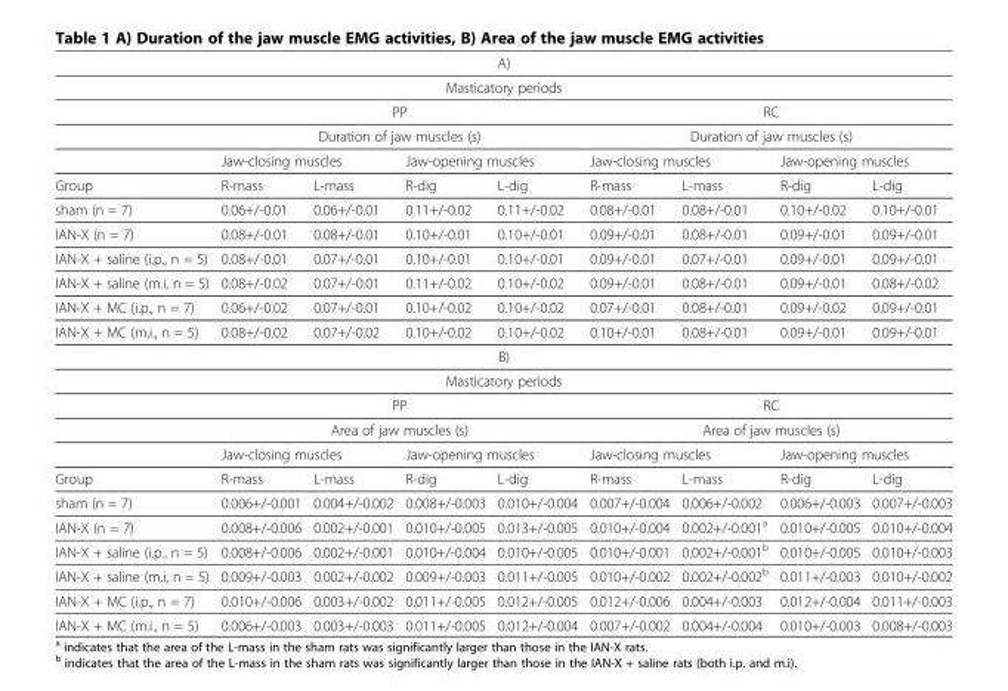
<table><tbody><tr><td colspan="9">A)</td></tr><tr><td colspan="9">Masticatory periods</td></tr><tr><td></td><td colspan="4">PP</td><td colspan="4">RC</td></tr><tr><td></td><td colspan="4">Duration of jaw muscles (s)</td><td colspan="4">Duration of jaw muscles (s)</td></tr><tr><td></td><td colspan="2">Jaw-closing muscles</td><td colspan="2">Jaw-opening muscles</td><td colspan="2">Jaw-closing muscles</td><td colspan="2">Jaw-opening muscles</td></tr><tr><td>Group</td><td>R-mass</td><td>L-mass</td><td>R-dig</td><td>L-dig</td><td>R-mass</td><td>L-mass</td><td>R-dig</td><td>L-dig</td></tr><tr><td>sham (n = 7)</td><td>0.06+/-0.01</td><td>0.06+/-0.01</td><td>0.11+/-0.02</td><td>0.11+/-0.02</td><td>0.08+/-0.01</td><td>0.08+/-0.01</td><td>0.10+/-0.02</td><td>0.10+/-0.01</td></tr><tr><td>IAN-X (n = 7)</td><td>0.08+/-0.01</td><td>0.08+/-0.01</td><td>0.10+/-0.01</td><td>0.10+/-0.01</td><td>0.09+/-0.01</td><td>0.08+/-0.01</td><td>0.09+/-0.01</td><td>0.09+/-0.01</td></tr><tr><td>IAN-X + saline (i.p., n = 5)</td><td>0.08+/-0.01</td><td>0.07+/-0.01</td><td>0.10+/-0.01</td><td>0.10+/-0.01</td><td>0.09+/-0.01</td><td>0.07+/-0.01</td><td>0.09+/-0.01</td><td>0.09+/-0.01</td></tr><tr><td>IAN-X + saline (m.i, n = 5)</td><td>0.08+/-0.02</td><td>0.07+/-0.01</td><td>0.11+/-0.02</td><td>0.10+/-0.02</td><td>0.09+/-0.01</td><td>0.08+/-0.01</td><td>0.09+/-0.01</td><td>0.08+/-0.02</td></tr><tr><td>IAN-X + MC (i.p., n = 7)</td><td>0.06+/-0.02</td><td>0.07+/-0.01</td><td>0.10+/-0.02</td><td>0.10+/-0.02</td><td>0.07+/-0.01</td><td>0.08+/-0.01</td><td>0.09+/-0.02</td><td>0.09+/-0.01</td></tr><tr><td>IAN-X + MC (m.i., n = 5)</td><td>0.08+/-0.02</td><td>0.07+/-0.02</td><td>0.10+/-0.02</td><td>0.10+/-0.02</td><td>0.10+/-0.01</td><td>0.08+/-0.01</td><td>0.09+/-0.01</td><td>0.09+/-0.01</td></tr><tr><td colspan="9">B)</td></tr><tr><td colspan="9">Masticatory periods</td></tr><tr><td></td><td colspan="4">PP</td><td colspan="4">RC</td></tr><tr><td></td><td colspan="4">Area of jaw muscles (s)</td><td colspan="4">Area of jaw muscles (s)</td></tr><tr><td></td><td colspan="2">Jaw-closing muscles</td><td colspan="2">Jaw-opening muscles</td><td colspan="2">Jaw-closing muscles</td><td colspan="2">Jaw-opening muscles</td></tr><tr><td>Group</td><td>R-mass</td><td>L-mass</td><td>R-dig</td><td>L-dig</td><td>R-mass</td><td>L-mass</td><td>R-dig</td><td>L-dig</td></tr><tr><td>sham (n = 7)</td><td>0.006+/-0.001</td><td>0.004+/-0.002</td><td>0.008+/-0.003</td><td>0.010+/-0.004</td><td>0.007+/-0.004</td><td>0.006+/-0.002</td><td>0.006+/-0.003</td><td>0.007+/-0.003</td></tr><tr><td>IAN-X (n = 7)</td><td>0.008+/-0.006</td><td>0.002+/-0.001</td><td>0.010+/-0.005</td><td>0.013+/-0.005</td><td>0.010+/-0.004</td><td>0.002+/-0.001<sup>a</sup></td><td>0.010+/-0.005</td><td>0.010+/-0.004</td></tr><tr><td>IAN-X + saline (i.p., n = 5)</td><td>0.008+/-0.006</td><td>0.002+/-0.001</td><td>0.010+/-0.004</td><td>0.010+/-0.005</td><td>0.010+/-0.001</td><td>0.002+/-0.001<sup>b</sup></td><td>0.010+/-0.005</td><td>0.010+/-0.003</td></tr><tr><td>IAN-X + saline (m.i, n = 5)</td><td>0.009+/-0.003</td><td>0.002+/-0.002</td><td>0.009+/-0.003</td><td>0.011+/-0.005</td><td>0.010+/-0.002</td><td>0.002+/-0.002<sup>b</sup></td><td>0.011+/-0.003</td><td>0.010+/-0.002</td></tr><tr><td>IAN-X + MC (i.p., n = 7)</td><td>0.010+/-0.006</td><td>0.003+/-0.002</td><td>0.011+/-0.005</td><td>0.012+/-0.005</td><td>0.012+/-0.006</td><td>0.004+/-0.003</td><td>0.012+/-0.004</td><td>0.011+/-0.003</td></tr><tr><td>IAN-X + MC (m.i., n = 5)</td><td>0.006+/-0.003</td><td>0.003+/-0.003</td><td>0.011+/-0.005</td><td>0.012+/-0.004</td><td>0.007+/-0.002</td><td>0.004+/-0.004</td><td>0.010+/-0.003</td><td>0.008+/-0.003</td></tr></tbody></table>